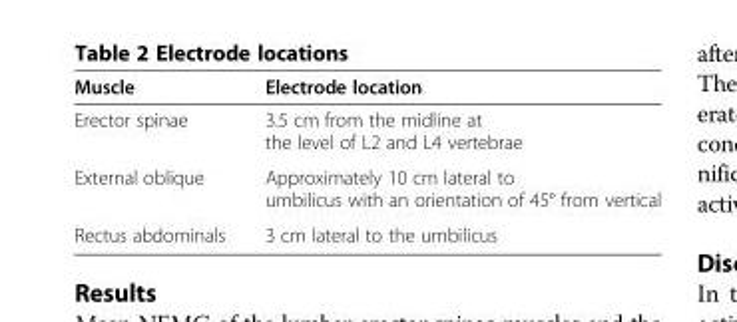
<table><thead><tr><td>Muscle</td><td>Electrode location</td></tr></thead><tbody><tr><td>Erector spinae</td><td>3.5 cm from the midline at the level of L2 and L4 vertebrae</td></tr><tr><td>External oblique</td><td>Approximately 10 cm lateral to umbilicus with an orientation of 45° from vertical</td></tr><tr><td>Rectus abdominals</td><td>3 cm lateral to the umbilicus</td></tr></tbody></table>